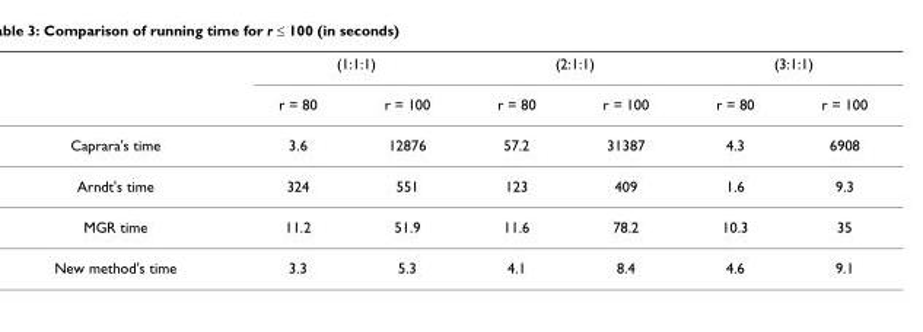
<table><thead><tr><td rowspan="2"></td><td colspan="2">(1:1:1)</td><td colspan="2">(2:1:1)</td><td colspan="2">(3:1:1)</td></tr><tr><td>r = 80</td><td>r = 100</td><td>r = 80</td><td>r = 100</td><td>r = 80</td><td>r = 100</td></tr></thead><tbody><tr><td>Caprara&#x27;s time</td><td>3.6</td><td>12876</td><td>57.2</td><td>31387</td><td>4.3</td><td>6908</td></tr><tr><td>Arndt&#x27;s time</td><td>324</td><td>551</td><td>123</td><td>409</td><td>1.6</td><td>9.3</td></tr><tr><td>MGR time</td><td>11.2</td><td>51.9</td><td>11.6</td><td>78.2</td><td>10.3</td><td>35</td></tr><tr><td>New method&#x27;s time</td><td>3.3</td><td>5.3</td><td>4.1</td><td>8.4</td><td>4.6</td><td>9.1</td></tr></tbody></table>